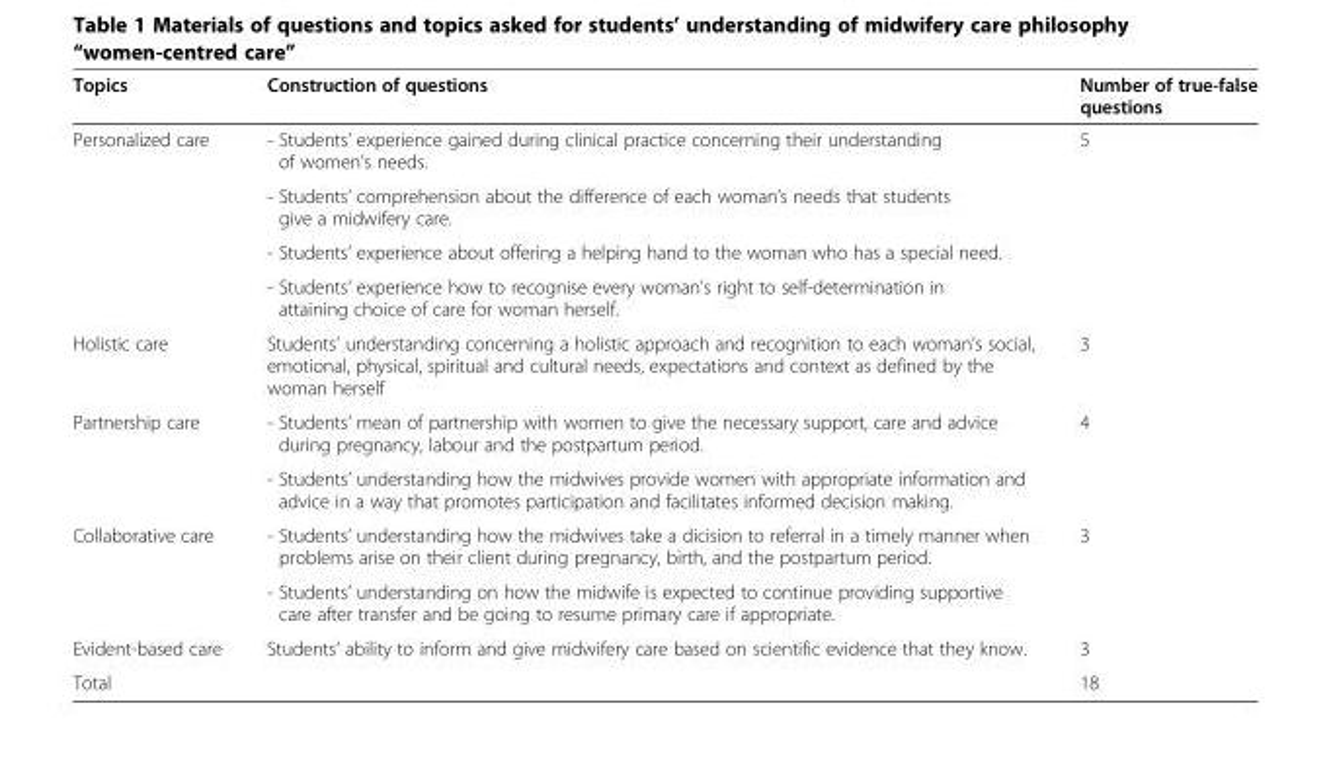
<table><thead><tr><td>Topics</td><td>Construction of questions</td><td>Number of true-false questions</td></tr></thead><tbody><tr><td rowspan="4">Personalized care</td><td>- Students’ experience gained during clinical practice concerning their understanding of women’s needs.</td><td rowspan="4">5</td></tr><tr><td>- Students’ comprehension about the difference of each woman’s needs that students give a midwifery care.</td></tr><tr><td>- Students’ experience about offering a helping hand to the woman who has a special need.</td></tr><tr><td>- Students’ experience how to recognise every woman’s right to self‑determination in attaining choice of care for woman herself.</td></tr><tr><td>Holistic care</td><td>Students’ understanding concerning a holistic approach and recognition to each woman’s social, emotional, physical, spiritual and cultural needs, expectations and context as defined by the woman herself</td><td>3</td></tr><tr><td rowspan="2">Partnership care</td><td>- Students’ mean of partnership with women to give the necessary support, care and advice during pregnancy, labour and the postpartum period.</td><td rowspan="2">4</td></tr><tr><td>- Students’ understanding how the midwives provide women with appropriate information and advice in a way that promotes participation and facilitates informed decision making.</td></tr><tr><td rowspan="2">Collaborative care</td><td>- Students’ understanding how the midwives take a dicision to referral in a timely manner when problems arise on their client during pregnancy, birth, and the postpartum period.</td><td rowspan="2">3</td></tr><tr><td>- Students’ understanding on how the midwife is expected to continue providing supportive care after transfer and be going to resume primary care if appropriate.</td></tr><tr><td>Evident-based care</td><td>Students’ ability to inform and give midwifery care based on scientific evidence that they know.</td><td>3</td></tr><tr><td colspan="2">Total</td><td>18</td></tr></tbody></table>